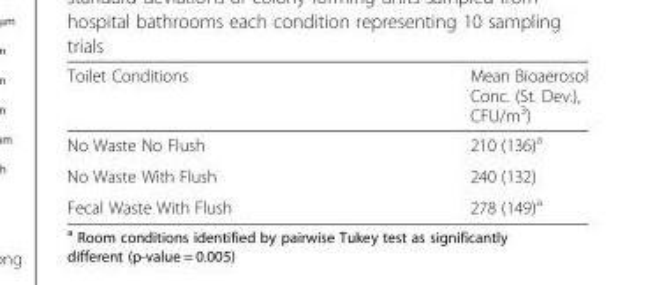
<table><thead><tr><td>Toilet Conditions</td><td>Mean Bioaerosol Conc. (St. Dev.), CFU/m<sup>3</sup>)</td></tr></thead><tbody><tr><td>No Waste No Flush</td><td>210 (136)<sup>a</sup></td></tr><tr><td>No Waste With Flush</td><td>240 (132)</td></tr><tr><td>Fecal Waste With Flush</td><td>278 (149)<sup>a</sup></td></tr></tbody></table>